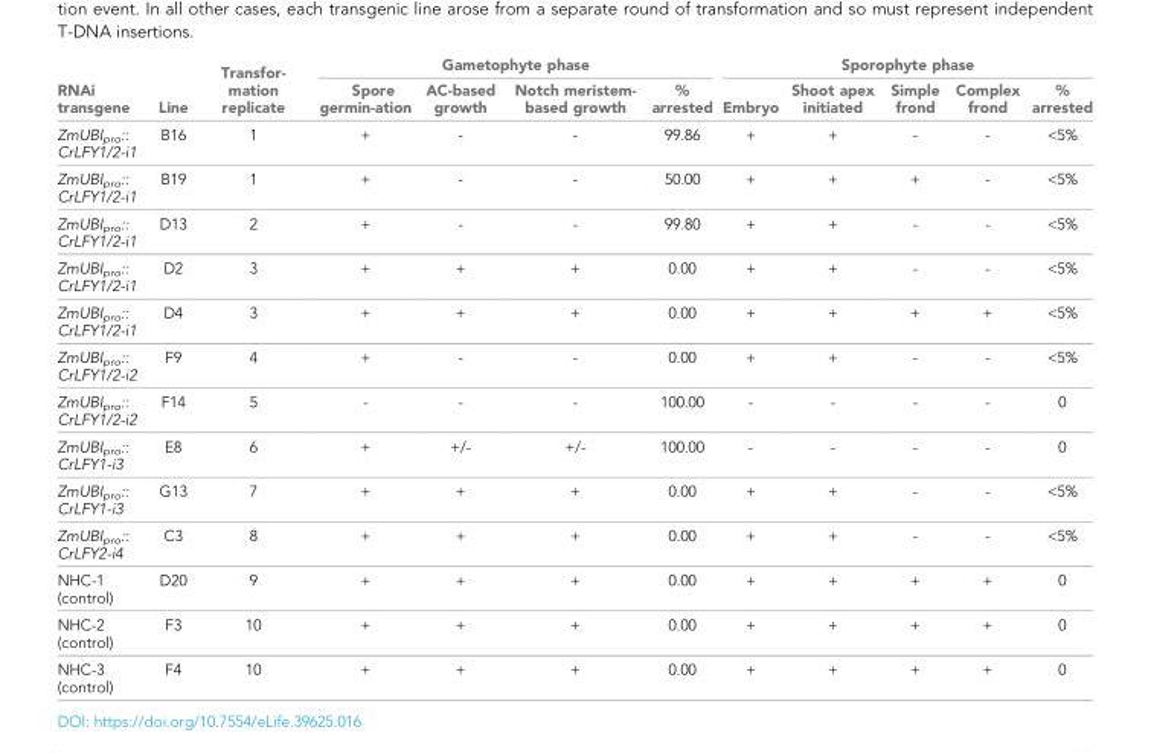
<table><thead><tr><td rowspan="2">RNAi transgene</td><td rowspan="2">Line</td><td rowspan="2">Transfor- mation replicate</td><td colspan="4">Gametophyte phase</td><td colspan="5">Sporophyte phase</td></tr><tr><td>Spore germin-ation</td><td>AC-based growth</td><td>Notch meristem- based growth</td><td>% arrested</td><td>Embryo</td><td>Shoot apex initiated</td><td>Simple frond</td><td>Complex frond</td><td>% arrested</td></tr></thead><tbody><tr><td>ZmUBI<sub>pro</sub>:: CrLFY1/2-i1</td><td>B16</td><td>1</td><td>+</td><td>-</td><td>-</td><td>99.86</td><td>+</td><td>+</td><td>-</td><td>-</td><td>&lt;5%</td></tr><tr><td>ZmUBI<sub>pro</sub>:: CrLFY1/2-i1</td><td>B19</td><td>1</td><td>+</td><td>-</td><td>-</td><td>50.00</td><td>+</td><td>+</td><td>+</td><td>-</td><td>&lt;5%</td></tr><tr><td>ZmUBI<sub>pro</sub>:: CrLFY1/2-i1</td><td>D13</td><td>2</td><td>+</td><td>-</td><td>-</td><td>99.80</td><td>+</td><td>+</td><td>-</td><td>-</td><td>&lt;5%</td></tr><tr><td>ZmUBI<sub>pro</sub>:: CrLFY1/2-i1</td><td>D2</td><td>3</td><td>+</td><td>+</td><td>+</td><td>0.00</td><td>+</td><td>+</td><td>-</td><td>-</td><td>&lt;5%</td></tr><tr><td>ZmUBI<sub>pro</sub>:: CrLFY1/2-i1</td><td>D4</td><td>3</td><td>+</td><td>+</td><td>+</td><td>0.00</td><td>+</td><td>+</td><td>+</td><td>+</td><td>&lt;5%</td></tr><tr><td>ZmUBI<sub>pro</sub>:: CrLFY1/2-i2</td><td>F9</td><td>4</td><td>+</td><td>-</td><td>-</td><td>0.00</td><td>+</td><td>+</td><td>-</td><td>-</td><td>&lt;5%</td></tr><tr><td>ZmUBI<sub>pro</sub>:: CrLFY1/2-i2</td><td>F14</td><td>5</td><td>-</td><td>-</td><td>-</td><td>100.00</td><td>-</td><td>-</td><td>-</td><td>-</td><td>0</td></tr><tr><td>ZmUBI<sub>pro</sub>:: CrLFY1-i3</td><td>E8</td><td>6</td><td>+</td><td>+/-</td><td>+/-</td><td>100.00</td><td>-</td><td>-</td><td>-</td><td>-</td><td>0</td></tr><tr><td>ZmUBI<sub>pro</sub>:: CrLFY1-i3</td><td>G13</td><td>7</td><td>+</td><td>+</td><td>+</td><td>0.00</td><td>+</td><td>+</td><td>-</td><td>-</td><td>&lt;5%</td></tr><tr><td>ZmUBI<sub>pro</sub>:: CrLFY2-i4</td><td>C3</td><td>8</td><td>+</td><td>+</td><td>+</td><td>0.00</td><td>+</td><td>+</td><td>-</td><td>-</td><td>&lt;5%</td></tr><tr><td>NHC-1 (control)</td><td>D20</td><td>9</td><td>+</td><td>+</td><td>+</td><td>0.00</td><td>+</td><td>+</td><td>+</td><td>+</td><td>0</td></tr><tr><td>NHC-2 (control)</td><td>F3</td><td>10</td><td>+</td><td>+</td><td>+</td><td>0.00</td><td>+</td><td>+</td><td>+</td><td>+</td><td>0</td></tr><tr><td>NHC-3 (control)</td><td>F4</td><td>10</td><td>+</td><td>+</td><td>+</td><td>0.00</td><td>+</td><td>+</td><td>+</td><td>+</td><td>0</td></tr></tbody></table>